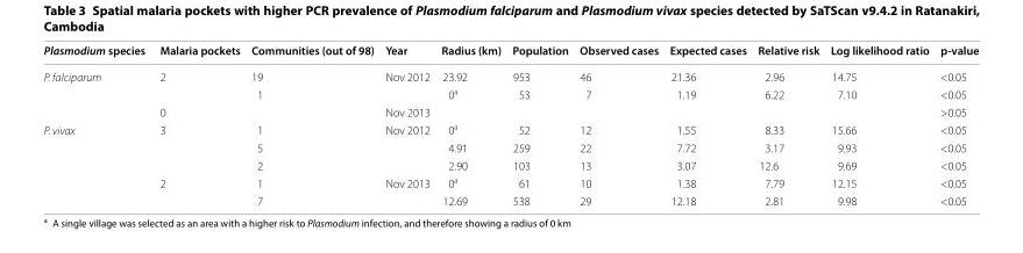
<table><thead><tr><td>Plasmodium species</td><td>Malaria pockets</td><td>Communities (out of 98)</td><td>Year</td><td>Radius (km)</td><td>Population</td><td>Observed cases</td><td>Expected cases</td><td>Relative risk</td><td>Log likelihood ratio</td><td>p-value</td></tr></thead><tbody><tr><td rowspan="3">P. falciparum</td><td rowspan="2">2</td><td>19</td><td rowspan="2">Nov 2012</td><td>23.92</td><td>953</td><td>46</td><td>21.36</td><td>2.96</td><td>14.75</td><td>&lt;0.05</td></tr><tr><td>1</td><td>0<sup>a</sup></td><td>53</td><td>7</td><td>1.19</td><td>6.22</td><td>7.10</td><td>&lt;0.05</td></tr><tr><td>0</td><td></td><td>Nov 2013</td><td></td><td></td><td></td><td></td><td></td><td></td><td>&gt;0.05</td></tr><tr><td rowspan="5">P. vivax</td><td rowspan="3">3</td><td>1</td><td rowspan="3">Nov 2012</td><td>0<sup>a</sup></td><td>52</td><td>12</td><td>1.55</td><td>8.33</td><td>15.66</td><td>&lt;0.05</td></tr><tr><td>5</td><td>4.91</td><td>259</td><td>22</td><td>7.72</td><td>3.17</td><td>9.93</td><td>&lt;0.05</td></tr><tr><td>2</td><td>2.90</td><td>103</td><td>13</td><td>3.07</td><td>12.6</td><td>9.69</td><td>&lt;0.05</td></tr><tr><td rowspan="2">2</td><td>1</td><td rowspan="2">Nov 2013</td><td>0<sup>a</sup></td><td>61</td><td>10</td><td>1.38</td><td>7.79</td><td>12.15</td><td>&lt;0.05</td></tr><tr><td>7</td><td>12.69</td><td>538</td><td>29</td><td>12.18</td><td>2.81</td><td>9.98</td><td>&lt;0.05</td></tr></tbody></table>